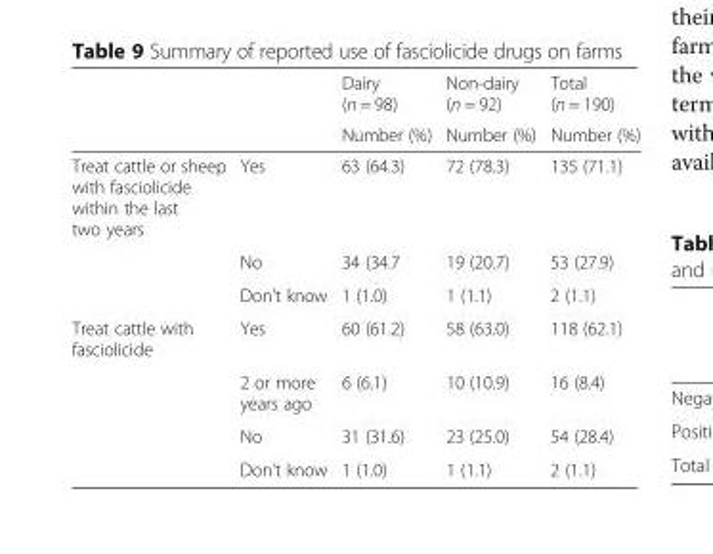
<table><thead><tr><td rowspan="2"></td><td rowspan="2"></td><td rowspan="2">Dairy (n = 98) Number (%)</td><td rowspan="2">Non-dairy (n = 92) Number (%)</td><td rowspan="2">Total (n = 190) Number (%)</td></tr><tr></tr></thead><tbody><tr><td rowspan="3">Treat cattle or sheep with fasciolicide within the last two years</td><td>Yes</td><td>63 (64.3)</td><td>72 (78.3)</td><td>135 (71.1)</td></tr><tr><td>No</td><td>34 (34.7</td><td>19 (20.7)</td><td>53 (27.9)</td></tr><tr><td>Don’t know</td><td>1 (1.0)</td><td>1 (1.1)</td><td>2 (1.1)</td></tr><tr><td rowspan="4">Treat cattle with fasciolicide</td><td>Yes</td><td>60 (61.2)</td><td>58 (63.0)</td><td>118 (62.1)</td></tr><tr><td>2 or more years ago</td><td>6 (6.1)</td><td>10 (10.9)</td><td>16 (8.4)</td></tr><tr><td>No</td><td>31 (31.6)</td><td>23 (25.0)</td><td>54 (28.4)</td></tr><tr><td>Don’t know</td><td>1 (1.0)</td><td>1 (1.1)</td><td>2 (1.1)</td></tr></tbody></table>